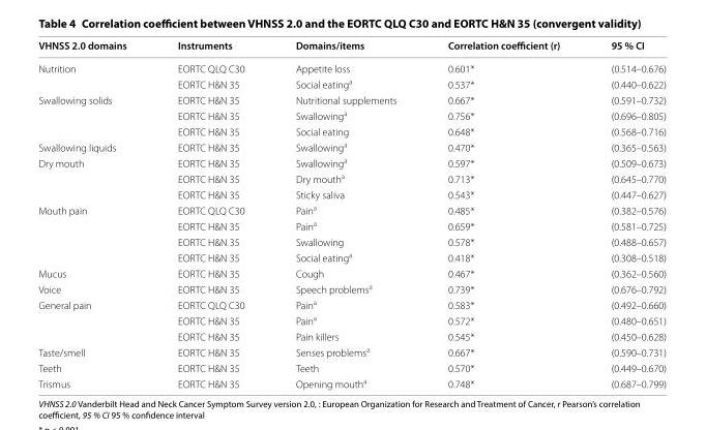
<table><thead><tr><td>VHNSS 2.0 domains</td><td>Instruments</td><td>Domains/items</td><td>Correlation coefficient (r)</td><td>95 % CI</td></tr></thead><tbody><tr><td rowspan="2">Nutrition</td><td>EORTC QLQ C30</td><td>Appetite loss</td><td>0.601*</td><td>(0.514–0.676)</td></tr><tr><td>EORTC H&amp;N 35</td><td>Social eating<sup>a</sup></td><td>0.537*</td><td>(0.440–0.622)</td></tr><tr><td rowspan="3">Swallowing solids</td><td>EORTC H&amp;N 35</td><td>Nutritional supplements</td><td>0.667*</td><td>(0.591–0.732)</td></tr><tr><td>EORTC H&amp;N 35</td><td>Swallowing<sup>a</sup></td><td>0.756*</td><td>(0.696–0.805)</td></tr><tr><td>EORTC H&amp;N 35</td><td>Social eating</td><td>0.648*</td><td>(0.568–0.716)</td></tr><tr><td>Swallowing liquids</td><td>EORTC H&amp;N 35</td><td>Swallowing<sup>a</sup></td><td>0.470*</td><td>(0.365–0.563)</td></tr><tr><td rowspan="3">Dry mouth</td><td>EORTC H&amp;N 35</td><td>Swallowing<sup>a</sup></td><td>0.597*</td><td>(0.509–0.673)</td></tr><tr><td>EORTC H&amp;N 35</td><td>Dry mouth<sup>a</sup></td><td>0.713*</td><td>(0.645–0.770)</td></tr><tr><td>EORTC H&amp;N 35</td><td>Sticky saliva</td><td>0.543*</td><td>(0.447–0.627)</td></tr><tr><td rowspan="4">Mouth pain</td><td>EORTC QLQ C30</td><td>Pain<sup>a</sup></td><td>0.485*</td><td>(0.382–0.576)</td></tr><tr><td>EORTC H&amp;N 35</td><td>Pain<sup>a</sup></td><td>0.659*</td><td>(0.581–0.725)</td></tr><tr><td>EORTC H&amp;N 35</td><td>Swallowing</td><td>0.578*</td><td>(0.488–0.657)</td></tr><tr><td>EORTC H&amp;N 35</td><td>Social eating<sup>a</sup></td><td>0.418*</td><td>(0.308–0.518)</td></tr><tr><td>Mucus</td><td>EORTC H&amp;N 35</td><td>Cough</td><td>0.467*</td><td>(0.362–0.560)</td></tr><tr><td>Voice</td><td>EORTC H&amp;N 35</td><td>Speech problems<sup>a</sup></td><td>0.739*</td><td>(0.676–0.792)</td></tr><tr><td rowspan="3">General pain</td><td>EORTC QLQ C30</td><td>Pain<sup>a</sup></td><td>0.583*</td><td>(0.492–0.660)</td></tr><tr><td>EORTC H&amp;N 35</td><td>Pain<sup>a</sup></td><td>0.572*</td><td>(0.480–0.651)</td></tr><tr><td>EORTC H&amp;N 35</td><td>Pain killers</td><td>0.545*</td><td>(0.450–0.628)</td></tr><tr><td>Taste/smell</td><td>EORTC H&amp;N 35</td><td>Senses problems<sup>a</sup></td><td>0.667*</td><td>(0.590–0.731)</td></tr><tr><td>Teeth</td><td>EORTC H&amp;N 35</td><td>Teeth</td><td>0.570*</td><td>(0.449–0.670)</td></tr><tr><td>Trismus</td><td>EORTC H&amp;N 35</td><td>Opening mouth<sup>a</sup></td><td>0.748*</td><td>(0.687–0.799)</td></tr></tbody></table>